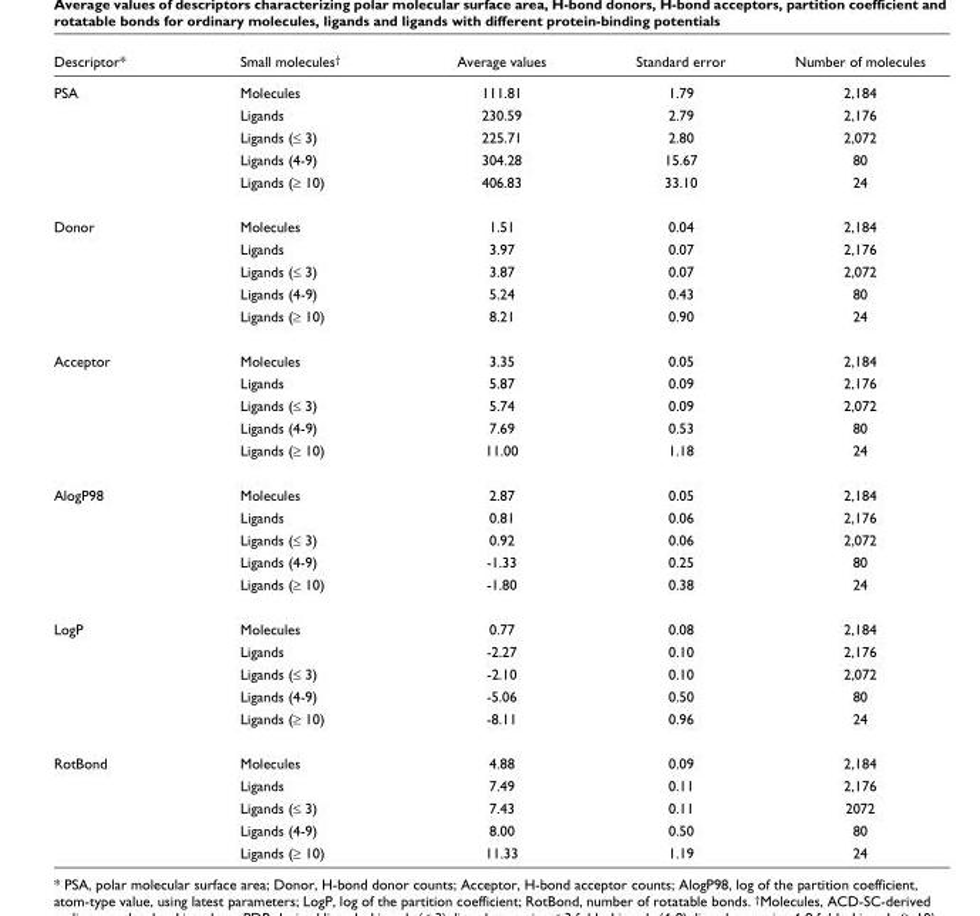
<table><thead><tr><td>Descriptor*</td><td>Small molecules<sup>†</sup></td><td>Average values</td><td>Standard error</td><td>Number of molecules</td></tr></thead><tbody><tr><td rowspan="5">PSA</td><td>Molecules</td><td>111.81</td><td>1.79</td><td>2,184</td></tr><tr><td>Ligands</td><td>230.59</td><td>2.79</td><td>2,176</td></tr><tr><td>Ligands (≤ 3)</td><td>225.71</td><td>2.80</td><td>2,072</td></tr><tr><td>Ligands (4-9)</td><td>304.28</td><td>15.67</td><td>80</td></tr><tr><td>Ligands (≥ 10)</td><td>406.83</td><td>33.10</td><td>24</td></tr><tr><td rowspan="5">Donor</td><td>Molecules</td><td>1.51</td><td>0.04</td><td>2,184</td></tr><tr><td>Ligands</td><td>3.97</td><td>0.07</td><td>2,176</td></tr><tr><td>Ligands (≤ 3)</td><td>3.87</td><td>0.07</td><td>2,072</td></tr><tr><td>Ligands (4-9)</td><td>5.24</td><td>0.43</td><td>80</td></tr><tr><td>Ligands (≥ 10)</td><td>8.21</td><td>0.90</td><td>24</td></tr><tr><td rowspan="5">Acceptor</td><td>Molecules</td><td>3.35</td><td>0.05</td><td>2,184</td></tr><tr><td>Ligands</td><td>5.87</td><td>0.09</td><td>2,176</td></tr><tr><td>Ligands (≤ 3)</td><td>5.74</td><td>0.09</td><td>2,072</td></tr><tr><td>Ligands (4-9)</td><td>7.69</td><td>0.53</td><td>80</td></tr><tr><td>Ligands (≥ 10)</td><td>11.00</td><td>1.18</td><td>24</td></tr><tr><td rowspan="5">AlogP98</td><td>Molecules</td><td>2.87</td><td>0.05</td><td>2,184</td></tr><tr><td>Ligands</td><td>0.81</td><td>0.06</td><td>2,176</td></tr><tr><td>Ligands (≤ 3)</td><td>0.92</td><td>0.06</td><td>2,072</td></tr><tr><td>Ligands (4-9)</td><td>-1.33</td><td>0.25</td><td>80</td></tr><tr><td>Ligands (≥ 10)</td><td>-1.80</td><td>0.38</td><td>24</td></tr><tr><td rowspan="5">LogP</td><td>Molecules</td><td>0.77</td><td>0.08</td><td>2,184</td></tr><tr><td>Ligands</td><td>-2.27</td><td>0.10</td><td>2,176</td></tr><tr><td>Ligands (≤ 3)</td><td>-2.10</td><td>0.10</td><td>2,072</td></tr><tr><td>Ligands (4-9)</td><td>-5.06</td><td>0.50</td><td>80</td></tr><tr><td>Ligands (≥ 10)</td><td>-8.11</td><td>0.96</td><td>24</td></tr><tr><td rowspan="5">RotBond</td><td>Molecules</td><td>4.88</td><td>0.09</td><td>2,184</td></tr><tr><td>Ligands</td><td>7.49</td><td>0.11</td><td>2,176</td></tr><tr><td>Ligands (≤ 3)</td><td>7.43</td><td>0.11</td><td>2072</td></tr><tr><td>Ligands (4-9)</td><td>8.00</td><td>0.50</td><td>80</td></tr><tr><td>Ligands (≥ 10)</td><td>11.33</td><td>1.19</td><td>24</td></tr></tbody></table>